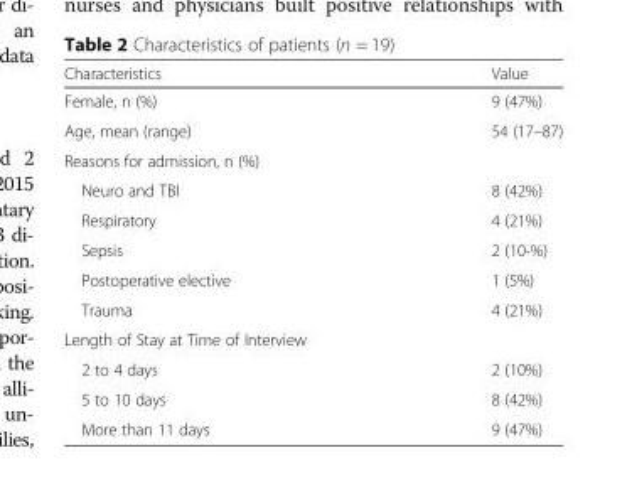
<table><thead><tr><td>Characteristics</td><td>Value</td></tr></thead><tbody><tr><td>Female, n (%)</td><td>9 (47%)</td></tr><tr><td>Age, mean (range)</td><td>54 (17–87)</td></tr><tr><td colspan="2">Reasons for admission, n (%)</td></tr><tr><td>Neuro and TBI</td><td>8 (42%)</td></tr><tr><td>Respiratory</td><td>4 (21%)</td></tr><tr><td>Sepsis</td><td>2 (10-%)</td></tr><tr><td>Postoperative elective</td><td>1 (5%)</td></tr><tr><td>Trauma</td><td>4 (21%)</td></tr><tr><td colspan="2">Length of Stay at Time of Interview</td></tr><tr><td>2 to 4 days</td><td>2 (10%)</td></tr><tr><td>5 to 10 days</td><td>8 (42%)</td></tr><tr><td>More than 11 days</td><td>9 (47%)</td></tr></tbody></table>